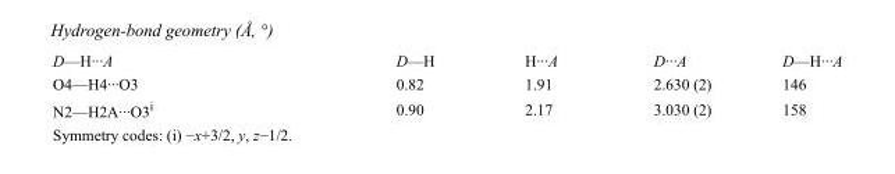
<table><tbody><tr><td>D—H···A</td><td>D—H</td><td>H···A</td><td>D···A</td><td>D—H···A</td></tr><tr><td>O4—H4···O3</td><td>0.82</td><td>1.91</td><td>2.630 (2)</td><td>146</td></tr><tr><td>N2—H2A···O3<sup>i</sup></td><td>0.90</td><td>2.17</td><td>3.030 (2)</td><td>158</td></tr></tbody></table>